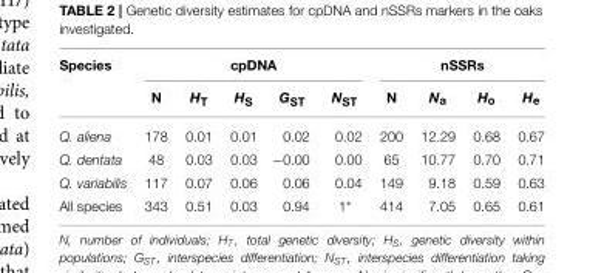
<table><thead><tr><td rowspan="2">Species</td><td colspan="5">cpDNA</td><td colspan="4">nSSRs</td></tr><tr><td>N</td><td>H<sub>T</sub></td><td>H<sub>S</sub></td><td>G<sub>ST</sub></td><td>N<sub>ST</sub></td><td>N</td><td>N<sub>a</sub></td><td>H<sub>o</sub></td><td>H<sub>e</sub></td></tr></thead><tbody><tr><td>Q. aliena</td><td>178</td><td>0.01</td><td>0.01</td><td>0.02</td><td>0.02</td><td>200</td><td>12.29</td><td>0.68</td><td>0.67</td></tr><tr><td>Q. dentata</td><td>48</td><td>0.03</td><td>0.03</td><td>−0.00</td><td>0.00</td><td>65</td><td>10.77</td><td>0.70</td><td>0.71</td></tr><tr><td>Q. variabilis</td><td>117</td><td>0.07</td><td>0.06</td><td>0.06</td><td>0.04</td><td>149</td><td>9.18</td><td>0.59</td><td>0.63</td></tr><tr><td>All species</td><td>343</td><td>0.51</td><td>0.03</td><td>0.94</td><td>1*</td><td>414</td><td>7.05</td><td>0.65</td><td>0.61</td></tr></tbody></table>